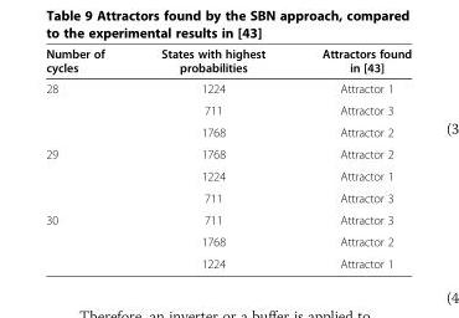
<table><thead><tr><td>Number of cycles</td><td>States with highest probabilities</td><td>Attractors found in [43]</td></tr></thead><tbody><tr><td rowspan="3">28</td><td>1224</td><td>Attractor 1</td></tr><tr><td>711</td><td>Attractor 3</td></tr><tr><td>1768</td><td>Attractor 2</td></tr><tr><td rowspan="3">29</td><td>1768</td><td>Attractor 2</td></tr><tr><td>1224</td><td>Attractor 1</td></tr><tr><td>711</td><td>Attractor 3</td></tr><tr><td rowspan="3">30</td><td>711</td><td>Attractor 3</td></tr><tr><td>1768</td><td>Attractor 2</td></tr><tr><td>1224</td><td>Attractor 1</td></tr></tbody></table>